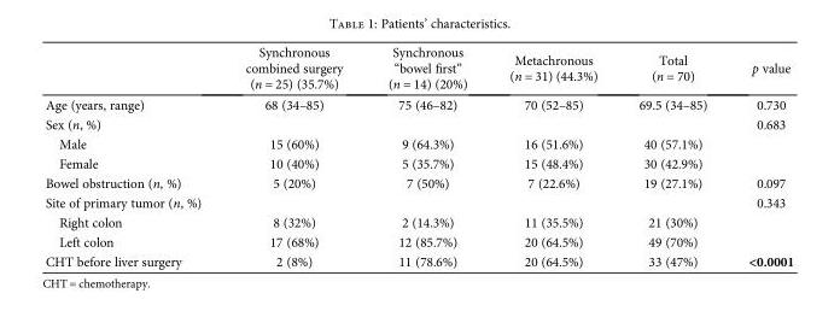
<table><thead><tr><td></td><td>Synchronous combined surgery (n = 25) (35.7%)</td><td>Synchronous “bowel first” (n = 14) (20%)</td><td>Metachronous (n = 31) (44.3%)</td><td>Total (n = 70)</td><td>p value</td></tr></thead><tbody><tr><td>Age (years, range)</td><td>68 (34–85)</td><td>75 (46–82)</td><td>70 (52–85)</td><td>69.5 (34–85)</td><td>0.730</td></tr><tr><td>Sex (n, %)</td><td></td><td></td><td></td><td></td><td>0.683</td></tr><tr><td>Male</td><td>15 (60%)</td><td>9 (64.3%)</td><td>16 (51.6%)</td><td>40 (57.1%)</td><td></td></tr><tr><td>Female</td><td>10 (40%)</td><td>5 (35.7%)</td><td>15 (48.4%)</td><td>30 (42.9%)</td><td></td></tr><tr><td>Bowel obstruction (n, %)</td><td>5 (20%)</td><td>7 (50%)</td><td>7 (22.6%)</td><td>19 (27.1%)</td><td>0.097</td></tr><tr><td>Site of primary tumor (n, %)</td><td></td><td></td><td></td><td></td><td>0.343</td></tr><tr><td>Right colon</td><td>8 (32%)</td><td>2 (14.3%)</td><td>11 (35.5%)</td><td>21 (30%)</td><td></td></tr><tr><td>Left colon</td><td>17 (68%)</td><td>12 (85.7%)</td><td>20 (64.5%)</td><td>49 (70%)</td><td></td></tr><tr><td>CHT before liver surgery</td><td>2 (8%)</td><td>11 (78.6%)</td><td>20 (64.5%)</td><td>33 (47%)</td><td>&lt;0.0001</td></tr></tbody></table>